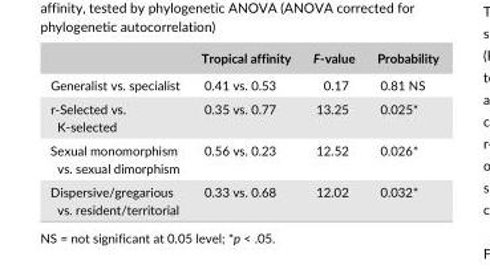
<table><thead><tr><td></td><td>Tropical affinity</td><td>F- value</td><td>Probability</td></tr></thead><tbody><tr><td>Generalist vs. specialist</td><td>0.41 vs. 0.53</td><td>0.17</td><td>0.81 NS</td></tr><tr><td>r- Selected vs. K- selected</td><td>0.35 vs. 0.77</td><td>13.25</td><td>0.025*</td></tr><tr><td>Sexual monomorphism vs. sexual dimorphism</td><td>0.56 vs. 0.23</td><td>12.52</td><td>0.026*</td></tr><tr><td>Dispersive/gregarious vs. resident/territorial</td><td>0.33 vs. 0.68</td><td>12.02</td><td>0.032*</td></tr></tbody></table>